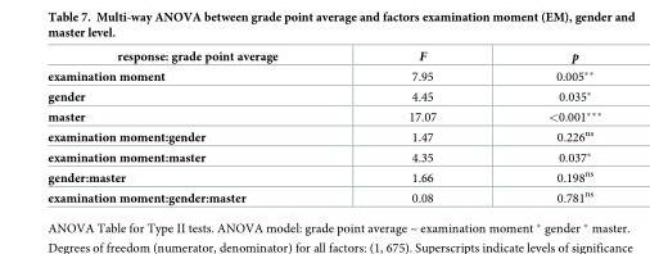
<table><thead><tr><td>response: grade point average</td><td>F</td><td>p</td></tr></thead><tbody><tr><td>examination moment</td><td>7.95</td><td>0.005**</td></tr><tr><td>gender</td><td>4.45</td><td>0.035*</td></tr><tr><td>master</td><td>17.07</td><td>&lt;0.001***</td></tr><tr><td>examination moment:gender</td><td>1.47</td><td>0.226<sup>ns</sup></td></tr><tr><td>examination moment:master</td><td>4.35</td><td>0.037*</td></tr><tr><td>gender:master</td><td>1.66</td><td>0.198<sup>ns</sup></td></tr><tr><td>examination moment:gender:master</td><td>0.08</td><td>0.781<sup>ns</sup></td></tr></tbody></table>